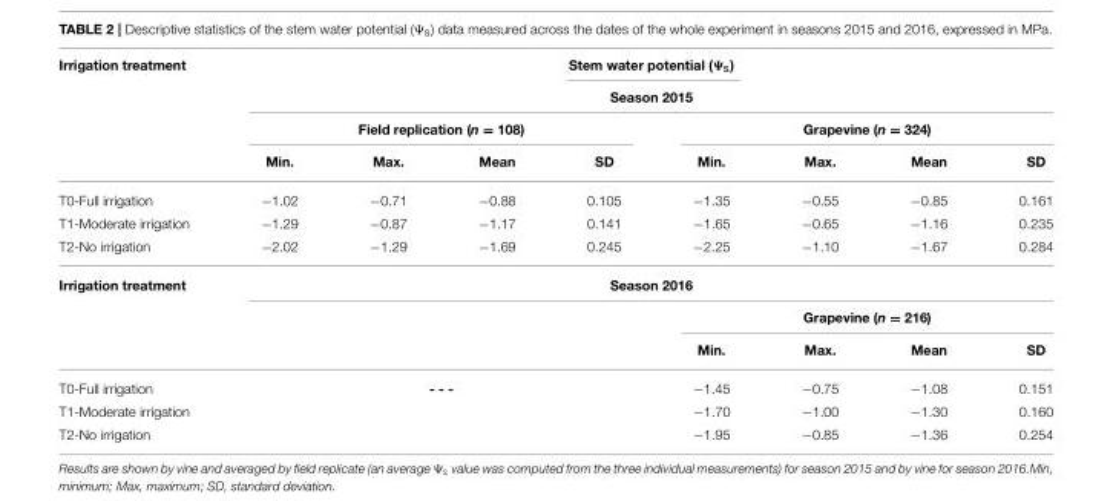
<table><thead><tr><td rowspan="4">Irrigation treatment</td><td></td><td></td><td></td><td colspan="2">Stem water potential (Ψ<sub>s</sub>)</td><td></td><td></td><td></td></tr><tr><td colspan="8">Season 2015</td></tr><tr><td colspan="4">Field replication (n = 108)</td><td colspan="4">Grapevine (n = 324)</td></tr><tr><td>Min.</td><td>Max.</td><td>Mean</td><td>SD</td><td>Min.</td><td>Max.</td><td>Mean</td><td>SD</td></tr></thead><tbody><tr><td>T0-Full irrigation</td><td>−1.02</td><td>−0.71</td><td>−0.88</td><td>0.105</td><td>−1.35</td><td>−0.55</td><td>−0.85</td><td>0.161</td></tr><tr><td>T1-Moderate irrigation</td><td>−1.29</td><td>−0.87</td><td>−1.17</td><td>0.141</td><td>−1.65</td><td>−0.65</td><td>−1.16</td><td>0.235</td></tr><tr><td>T2-No irrigation</td><td>−2.02</td><td>−1.29</td><td>−1.69</td><td>0.245</td><td>−2.25</td><td>−1.10</td><td>−1.67</td><td>0.284</td></tr><tr><td rowspan="3">Irrigation treatment</td><td colspan="8">Season 2016</td></tr><tr><td colspan="4"></td><td colspan="4">Grapevine (n = 216)</td></tr><tr><td colspan="4"></td><td>Min.</td><td>Max.</td><td>Mean</td><td>SD</td></tr><tr><td>T0-Full irrigation</td><td colspan="4">- - -</td><td>−1.45</td><td>−0.75</td><td>−1.08</td><td>0.151</td></tr><tr><td>T1-Moderate irrigation</td><td colspan="4"></td><td>−1.70</td><td>−1.00</td><td>−1.30</td><td>0.160</td></tr><tr><td>T2-No irrigation</td><td colspan="4"></td><td>−1.95</td><td>−0.85</td><td>−1.36</td><td>0.254</td></tr></tbody></table>